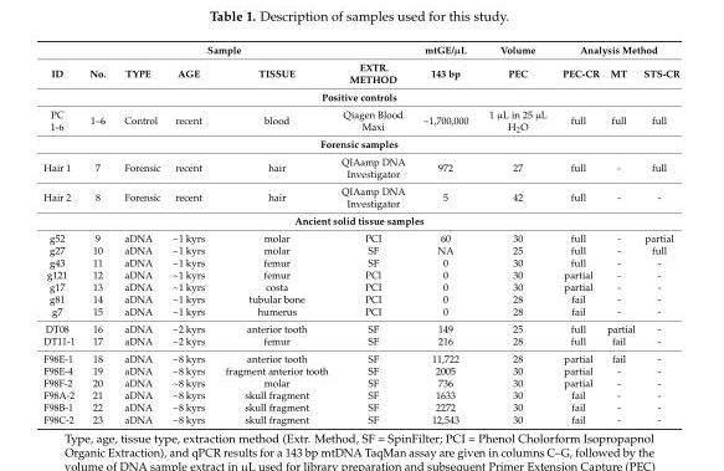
<table><thead><tr><td colspan="6">Sample</td><td rowspan="2">mtGE/µL 143 bp</td><td rowspan="2">Volume PEC</td><td colspan="3">Analysis Method</td></tr><tr><td>ID</td><td>No.</td><td>TYPE</td><td>AGE</td><td>TISSUE</td><td>EXTR. METHOD</td><td>PEC-CR</td><td>MT</td><td>STS-CR</td></tr></thead><tbody><tr><td colspan="11">Positive controls</td></tr><tr><td>PC 1-6</td><td>1–6</td><td>Control</td><td>recent</td><td>blood</td><td>Qiagen Blood Maxi</td><td>~1,700,000</td><td>1 µL in 25 µL H<sub>2</sub>O</td><td>full</td><td>full</td><td>full</td></tr><tr><td colspan="11">Forensic samples</td></tr><tr><td>Hair 1</td><td>7</td><td>Forensic</td><td>recent</td><td>hair</td><td>QIAamp DNA Investigator</td><td>972</td><td>27</td><td>full</td><td>-</td><td>full</td></tr><tr><td>Hair 2</td><td>8</td><td>Forensic</td><td>recent</td><td>hair</td><td>QIAamp DNA Investigator</td><td>5</td><td>42</td><td>full</td><td>-</td><td>-</td></tr><tr><td colspan="11">Ancient solid tissue samples</td></tr><tr><td>g52</td><td>9</td><td>aDNA</td><td>~1 kyrs</td><td>molar</td><td>PCI</td><td>60</td><td>30</td><td>full</td><td>-</td><td>partial</td></tr><tr><td>g27</td><td>10</td><td>aDNA</td><td>~1 kyrs</td><td>molar</td><td>SF</td><td>NA</td><td>25</td><td>full</td><td>-</td><td>full</td></tr><tr><td>g43</td><td>11</td><td>aDNA</td><td>~1 kyrs</td><td>femur</td><td>SF</td><td>0</td><td>30</td><td>full</td><td>-</td><td>-</td></tr><tr><td>g121</td><td>12</td><td>aDNA</td><td>~1 kyrs</td><td>femur</td><td>PCl</td><td>0</td><td>30</td><td>partial</td><td>-</td><td>-</td></tr><tr><td>g17</td><td>13</td><td>aDNA</td><td>~1 kyrs</td><td>costa</td><td>PCI</td><td>0</td><td>30</td><td>partial</td><td>-</td><td>-</td></tr><tr><td>g81</td><td>14</td><td>aDNA</td><td>~1 kyrs</td><td>tubular bone</td><td>PCI</td><td>0</td><td>28</td><td>fail</td><td>-</td><td>-</td></tr><tr><td>g7</td><td>15</td><td>aDNA</td><td>~1 kyrs</td><td>humerus</td><td>PCI</td><td>0</td><td>28</td><td>fail</td><td>-</td><td>-</td></tr><tr><td>DT08</td><td>16</td><td>aDNA</td><td>~2 kyrs</td><td>anterior tooth</td><td>SF</td><td>149</td><td>25</td><td>full</td><td>partial</td><td>-</td></tr><tr><td>DT11-1</td><td>17</td><td>aDNA</td><td>~2 kyrs</td><td>femur</td><td>SF</td><td>216</td><td>28</td><td>full</td><td>fail</td><td>-</td></tr><tr><td>F98E-1</td><td>18</td><td>aDNA</td><td>~8 kyrs</td><td>anterior tooth</td><td>SF</td><td>11,722</td><td>28</td><td>partial</td><td>fail</td><td>-</td></tr><tr><td>F98E-4</td><td>19</td><td>aDNA</td><td>~8 kyrs</td><td>fragment anterior tooth</td><td>SF</td><td>2005</td><td>30</td><td>partial</td><td>-</td><td>-</td></tr><tr><td>F98F-2</td><td>20</td><td>aDNA</td><td>~8 kyrs</td><td>molar</td><td>SF</td><td>736</td><td>30</td><td>partial</td><td>-</td><td>-</td></tr><tr><td>F98A-2</td><td>21</td><td>aDNA</td><td>~8 kyrs</td><td>skull fragment</td><td>SF</td><td>1633</td><td>30</td><td>fail</td><td>-</td><td>-</td></tr><tr><td>F98B-1</td><td>22</td><td>aDNA</td><td>~8 kyrs</td><td>skull fragment</td><td>SF</td><td>2272</td><td>30</td><td>fail</td><td>-</td><td>-</td></tr><tr><td>F98C-2</td><td>23</td><td>aDNA</td><td>~8 kyrs</td><td>skull fragment</td><td>SF</td><td>12,543</td><td>30</td><td>fail</td><td>-</td><td>-</td></tr></tbody></table>